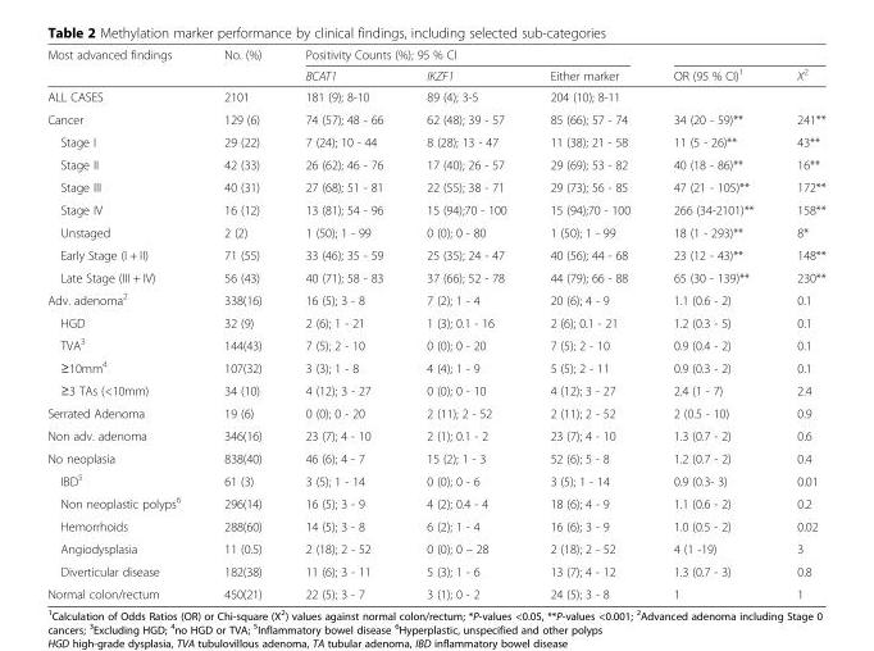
<table><thead><tr><td rowspan="2">Most advanced findings</td><td rowspan="2">No. (%)</td><td colspan="3">Positivity Counts (%); 95 % CI</td><td rowspan="2">OR (95 % CI)<sup>1</sup></td><td rowspan="2">X<sup>2</sup></td></tr><tr><td>BCAT1</td><td>IKZF1</td><td>Either marker</td></tr></thead><tbody><tr><td>ALL CASES</td><td>2101</td><td>181 (9); 8-10</td><td>89 (4); 3-5</td><td>204 (10); 8-11</td><td></td><td></td></tr><tr><td>Cancer</td><td>129 (6)</td><td>74 (57); 48 - 66</td><td>62 (48); 39 - 57</td><td>85 (66); 57 - 74</td><td>34 (20 - 59)**</td><td>241**</td></tr><tr><td>Stage I</td><td>29 (22)</td><td>7 (24); 10 - 44</td><td>8 (28); 13 - 47</td><td>11 (38); 21 - 58</td><td>11 (5 - 26)**</td><td>43**</td></tr><tr><td>Stage II</td><td>42 (33)</td><td>26 (62); 46 - 76</td><td>17 (40); 26 - 57</td><td>29 (69); 53 - 82</td><td>40 (18 - 86)**</td><td>16**</td></tr><tr><td>Stage III</td><td>40 (31)</td><td>27 (68); 51 - 81</td><td>22 (55); 38 - 71</td><td>29 (73); 56 - 85</td><td>47 (21 - 105)**</td><td>172**</td></tr><tr><td>Stage IV</td><td>16 (12)</td><td>13 (81); 54 - 96</td><td>15 (94);70 - 100</td><td>15 (94);70 - 100</td><td>266 (34-2101)**</td><td>158**</td></tr><tr><td>Unstaged</td><td>2 (2)</td><td>1 (50); 1 - 99</td><td>0 (0); 0 - 80</td><td>1 (50); 1 - 99</td><td>18 (1 - 293)**</td><td>8*</td></tr><tr><td>Early Stage (I + II)</td><td>71 (55)</td><td>33 (46); 35 - 59</td><td>25 (35); 24 - 47</td><td>40 (56); 44 - 68</td><td>23 (12 - 43)**</td><td>148**</td></tr><tr><td>Late Stage (III + IV)</td><td>56 (43)</td><td>40 (71); 58 - 83</td><td>37 (66); 52 - 78</td><td>44 (79); 66 - 88</td><td>65 (30 - 139)**</td><td>230**</td></tr><tr><td>Adv. adenoma<sup>2</sup></td><td>338(16)</td><td>16 (5); 3 - 8</td><td>7 (2); 1 - 4</td><td>20 (6); 4 - 9</td><td>1.1 (0.6 - 2)</td><td>0.1</td></tr><tr><td>HGD</td><td>32 (9)</td><td>2 (6); 1 - 21</td><td>1 (3); 0.1 - 16</td><td>2 (6); 0.1 - 21</td><td>1.2 (0.3 - 5)</td><td>0.1</td></tr><tr><td>TVA<sup>3</sup></td><td>144(43)</td><td>7 (5); 2 - 10</td><td>0 (0); 0 - 20</td><td>7 (5); 2 - 10</td><td>0.9 (0.4 - 2)</td><td>0.1</td></tr><tr><td>≥10mm<sup>4</sup></td><td>107(32)</td><td>3 (3); 1 - 8</td><td>4 (4); 1 - 9</td><td>5 (5); 2 - 11</td><td>0.9 (0.3 - 2)</td><td>0.1</td></tr><tr><td>≥3 TAs (&lt;10mm)</td><td>34 (10)</td><td>4 (12); 3 - 27</td><td>0 (0); 0 - 10</td><td>4 (12); 3 - 27</td><td>2.4 (1 - 7)</td><td>2.4</td></tr><tr><td>Serrated Adenoma</td><td>19 (6)</td><td>0 (0); 0 - 20</td><td>2 (11); 2 - 52</td><td>2 (11); 2 - 52</td><td>2 (0.5 - 10)</td><td>0.9</td></tr><tr><td>Non adv. adenoma</td><td>346(16)</td><td>23 (7); 4 - 10</td><td>2 (1); 0.1 - 2</td><td>23 (7); 4 - 10</td><td>1.3 (0.7 - 2)</td><td>0.6</td></tr><tr><td>No neoplasia</td><td>838(40)</td><td>46 (6); 4 - 7</td><td>15 (2); 1 - 3</td><td>52 (6); 5 - 8</td><td>1.2 (0.7 - 2)</td><td>0.4</td></tr><tr><td>IBD<sup>5</sup></td><td>61 (3)</td><td>3 (5); 1 - 14</td><td>0 (0); 0 - 6</td><td>3 (5); 1 - 14</td><td>0.9 (0.3- 3)</td><td>0.01</td></tr><tr><td>Non neoplastic polyps<sup>6</sup></td><td>296(14)</td><td>16 (5); 3 - 9</td><td>4 (2); 0.4 - 4</td><td>18 (6); 4 - 9</td><td>1.1 (0.6 - 2)</td><td>0.2</td></tr><tr><td>Hemorrhoids</td><td>288(60)</td><td>14 (5); 3 - 8</td><td>6 (2); 1 - 4</td><td>16 (6); 3 - 9</td><td>1.0 (0.5 - 2)</td><td>0.02</td></tr><tr><td>Angiodysplasia</td><td>11 (0.5)</td><td>2 (18); 2 - 52</td><td>0 (0); 0 – 28</td><td>2 (18); 2 - 52</td><td>4 (1 -19)</td><td>3</td></tr><tr><td>Diverticular disease</td><td>182(38)</td><td>11 (6); 3 - 11</td><td>5 (3); 1 - 6</td><td>13 (7); 4 - 12</td><td>1.3 (0.7 - 3)</td><td>0.8</td></tr><tr><td>Normal colon/rectum</td><td>450(21)</td><td>22 (5); 3 - 7</td><td>3 (1); 0 - 2</td><td>24 (5); 3 - 8</td><td>1</td><td>1</td></tr></tbody></table>